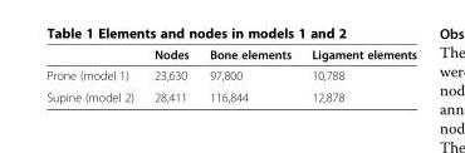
<table><thead><tr><td></td><td>Nodes</td><td>Bone elements</td><td>Ligament elements</td></tr></thead><tbody><tr><td>Prone (model 1)</td><td>23,630</td><td>97,800</td><td>10,788</td></tr><tr><td>Supine (model 2)</td><td>28,411</td><td>116,844</td><td>12,878</td></tr></tbody></table>